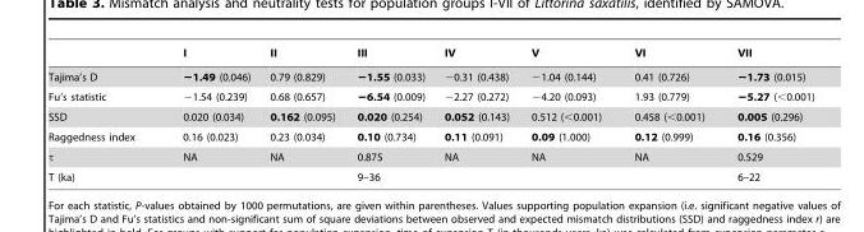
<table><thead><tr><td></td><td>I</td><td>II</td><td>III</td><td>IV</td><td>V</td><td>VI</td><td>VII</td></tr></thead><tbody><tr><td>Tajima’s D</td><td>−1.49 (0.046)</td><td>0.79 (0.829)</td><td>−1.55 (0.033)</td><td>−0.31 (0.438)</td><td>−1.04 (0.144)</td><td>0.41 (0.726)</td><td>−1.73 (0.015)</td></tr><tr><td>Fu’s statistic</td><td>−1.54 (0.239)</td><td>0.68 (0.657)</td><td>−6.54 (0.009)</td><td>−2.27 (0.272)</td><td>−4.20 (0.093)</td><td>1.93 (0.779)</td><td>−5.27 (&lt;0.001)</td></tr><tr><td>SSD</td><td>0.020 (0.034)</td><td>0.162 (0.095)</td><td>0.020 (0.254)</td><td>0.052 (0.143)</td><td>0.512 (&lt;0.001)</td><td>0.458 (&lt;0.001)</td><td>0.005 (0.296)</td></tr><tr><td>Raggedness index</td><td>0.16 (0.023)</td><td>0.23 (0.034)</td><td>0.10 (0.734)</td><td>0.11 (0.091)</td><td>0.09 (1.000)</td><td>0.12 (0.999)</td><td>0.16 (0.356)</td></tr><tr><td>τ</td><td>NA</td><td>NA</td><td>0.875</td><td>NA</td><td>NA</td><td>NA</td><td>0.529</td></tr><tr><td>T (ka)</td><td></td><td></td><td>9–36</td><td></td><td></td><td></td><td>6–22</td></tr></tbody></table>